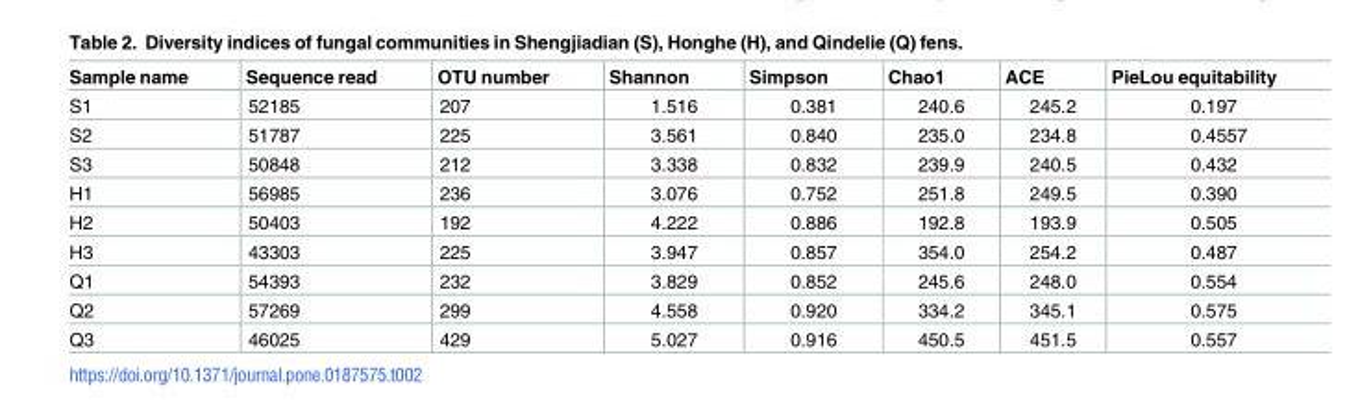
<table><thead><tr><td>Sample name</td><td>Sequence read</td><td>OTU number</td><td>Shannon</td><td>Simpson</td><td>Chao1</td><td>ACE</td><td>PieLou equitability</td></tr></thead><tbody><tr><td>S1</td><td>52185</td><td>207</td><td>1.516</td><td>0.381</td><td>240.6</td><td>245.2</td><td>0.197</td></tr><tr><td>S2</td><td>51787</td><td>225</td><td>3.561</td><td>0.840</td><td>235.0</td><td>234.8</td><td>0.4557</td></tr><tr><td>S3</td><td>50848</td><td>212</td><td>3.338</td><td>0.832</td><td>239.9</td><td>240.5</td><td>0.432</td></tr><tr><td>H1</td><td>56985</td><td>236</td><td>3.076</td><td>0.752</td><td>251.8</td><td>249.5</td><td>0.390</td></tr><tr><td>H2</td><td>50403</td><td>192</td><td>4.222</td><td>0.886</td><td>192.8</td><td>193.9</td><td>0.505</td></tr><tr><td>H3</td><td>43303</td><td>225</td><td>3.947</td><td>0.857</td><td>354.0</td><td>254.2</td><td>0.487</td></tr><tr><td>Q1</td><td>54393</td><td>232</td><td>3.829</td><td>0.852</td><td>245.6</td><td>248.0</td><td>0.554</td></tr><tr><td>Q2</td><td>57269</td><td>299</td><td>4.558</td><td>0.920</td><td>334.2</td><td>345.1</td><td>0.575</td></tr><tr><td>Q3</td><td>46025</td><td>429</td><td>5.027</td><td>0.916</td><td>450.5</td><td>451.5</td><td>0.557</td></tr></tbody></table>